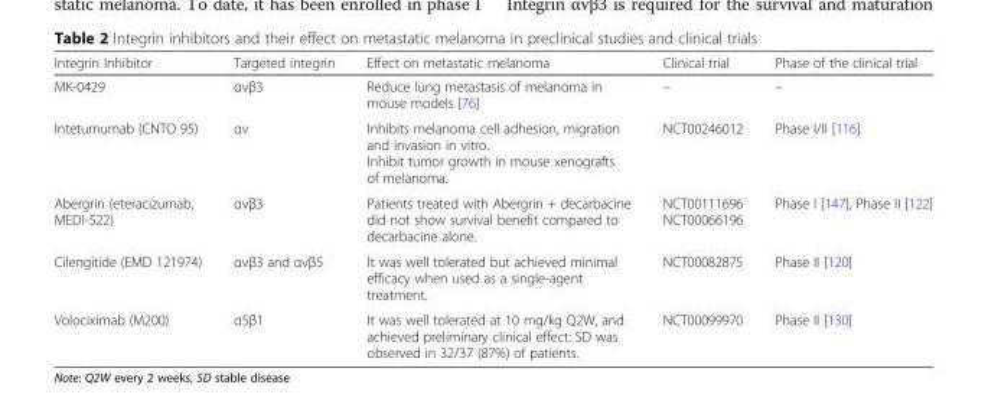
<table><thead><tr><td>Integrin Inhibitor</td><td>Targeted integrin</td><td>Effect on metastatic melanoma</td><td>Clinical trial</td><td>Phase of the clinical trial</td></tr></thead><tbody><tr><td>MK-0429</td><td>αvβ3</td><td>Reduce lung metastasis of melanoma in mouse models [76]</td><td>–</td><td>–</td></tr><tr><td>Intetumumab (CNTO 95)</td><td>αv</td><td>Inhibits melanoma cell adhesion, migration and invasion in vitro. Inhibit tumor growth in mouse xenografts of melanoma.</td><td>NCT00246012</td><td>Phase I/II [116]</td></tr><tr><td>Abergrin (eteracizumab, MEDI-522)</td><td>αvβ3</td><td>Patients treated with Abergrin + decarbacine did not show survival benefit compared to decarbacine alone.</td><td>NCT00111696 NCT00066196</td><td>Phase I [147], Phase II [122]</td></tr><tr><td>Cilengitide (EMD 121974)</td><td>αvβ3 and αvβ5</td><td>It was well tolerated but achieved minimal efficacy when used as a single-agent treatment.</td><td>NCT00082875</td><td>Phase II [120]</td></tr><tr><td>Volociximab (M200)</td><td>α5β1</td><td>It was well tolerated at 10 mg/kg Q2W, and achieved preliminary clinical effect: SD was observed in 32/37 (87%) of patients.</td><td>NCT00099970</td><td>Phase II [130]</td></tr></tbody></table>